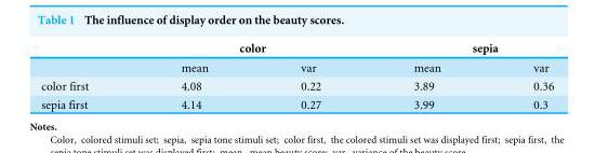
<table><thead><tr><td rowspan="2"></td><td colspan="2">color</td><td colspan="2">sepia</td></tr><tr><td>mean</td><td>var</td><td>mean</td><td>var</td></tr></thead><tbody><tr><td>color first</td><td>4.08</td><td>0.22</td><td>3.89</td><td>0.36</td></tr><tr><td>sepia first</td><td>4.14</td><td>0.27</td><td>3.99</td><td>0.3</td></tr></tbody></table>